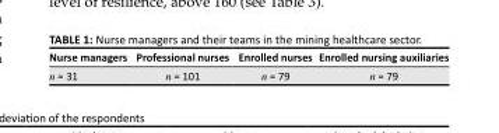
<table><thead><tr><td>Nurse managers</td><td>Professional nurses</td><td>Enrolled nurses</td><td>Enrolled nursing auxiliaries</td></tr></thead><tbody><tr><td>n = 31</td><td>n = 101</td><td>n = 79</td><td>n = 79</td></tr></tbody></table>